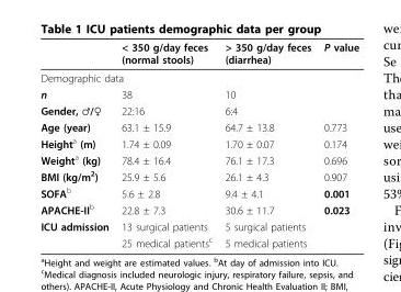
<table><thead><tr><td></td><td>&lt; 350 g/day feces (normal stools)</td><td>&gt; 350 g/day feces (diarrhea)</td><td>P value</td></tr></thead><tbody><tr><td colspan="4">Demographic data</td></tr><tr><td>n</td><td>38</td><td>10</td><td></td></tr><tr><td>Gender, ♂/♀</td><td>22:16</td><td>6:4</td><td></td></tr><tr><td>Age (year)</td><td>63.1 ± 15.9</td><td>64.7 ± 13.8</td><td>0.773</td></tr><tr><td>Height<sup>a</sup> (m)</td><td>1.74 ± 0.09</td><td>1.70 ± 0.07</td><td>0.174</td></tr><tr><td>Weight<sup>a</sup> (kg)</td><td>78.4 ± 16.4</td><td>76.1 ± 17.3</td><td>0.696</td></tr><tr><td>BMI (kg/m<sup>2</sup>)</td><td>25.9 ± 5.6</td><td>26.1 ± 4.3</td><td>0.907</td></tr><tr><td>SOFA<sup>b</sup></td><td>5.6 ± 2.8</td><td>9.4 ± 4.1</td><td>0.001</td></tr><tr><td>APACHE-II<sup>b</sup></td><td>22.8 ± 7.3</td><td>30.6 ± 11.7</td><td>0.023</td></tr><tr><td rowspan="2">ICU admission</td><td>13 surgical patients</td><td>5 surgical patients</td><td></td></tr><tr><td>25 medical patients<sup>c</sup></td><td>5 medical patients</td><td></td></tr></tbody></table>